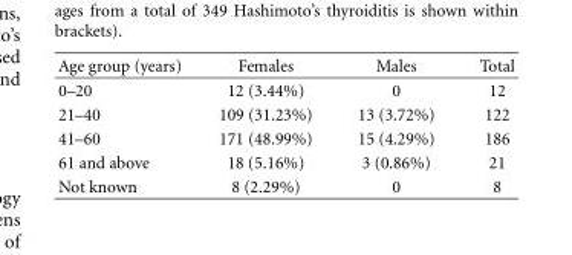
<table><thead><tr><td>Age group (years)</td><td>Females</td><td>Males</td><td>Total</td></tr></thead><tbody><tr><td>0–20</td><td>12 (3.44%)</td><td>0</td><td>12</td></tr><tr><td>21–40</td><td>109 (31.23%)</td><td>13 (3.72%)</td><td>122</td></tr><tr><td>41–60</td><td>171 (48.99%)</td><td>15 (4.29%)</td><td>186</td></tr><tr><td>61 and above</td><td>18 (5.16%)</td><td>3 (0.86%)</td><td>21</td></tr><tr><td>Not known</td><td>8 (2.29%)</td><td>0</td><td>8</td></tr></tbody></table>